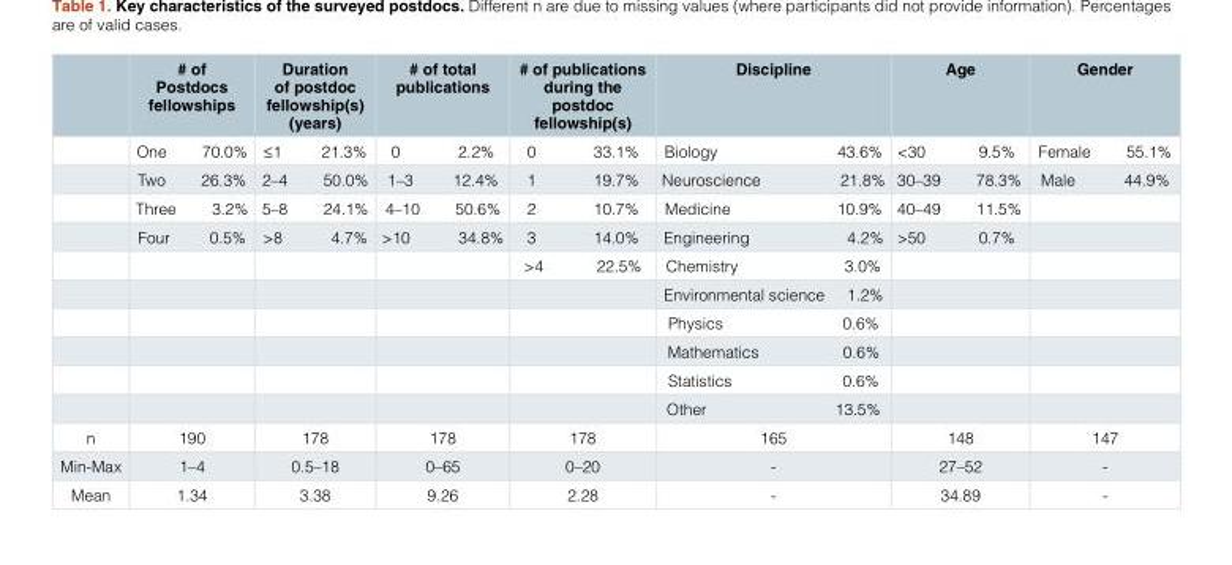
<table><thead><tr><td></td><td># of Postdocs fellowships</td><td>Duration of postdoc fellowship(s) (years)</td><td># of total publications</td><td># of publications during the postdoc fellowship(s)</td><td>Discipline</td><td>Age</td><td>Gender</td></tr></thead><tbody><tr><td></td><td>One 70.0%</td><td>≤1 21.3%</td><td>0 2.2%</td><td>0 33.1%</td><td>Biology 43.6%</td><td>&lt;30 9.5%</td><td>Female 55.1%</td></tr><tr><td></td><td>Two 26.3%</td><td>2–4 50.0%</td><td>1–3 12.4%</td><td>1 19.7%</td><td>Neuroscience 21.8%</td><td>30–39 78.3%</td><td>Male 44.9%</td></tr><tr><td></td><td>Three 3.2%</td><td>5–8 24.1%</td><td>4–10 50.6%</td><td>2 10.7%</td><td>Medicine 10.9%</td><td>40–49 11.5%</td><td></td></tr><tr><td></td><td>Four 0.5%</td><td>&gt;8 4.7%</td><td>&gt;10 34.8%</td><td>3 14.0%</td><td>Engineering 4.2%</td><td>&gt;50 0.7%</td><td></td></tr><tr><td></td><td></td><td></td><td></td><td>&gt;4 22.5%</td><td>Chemistry 3.0%</td><td></td><td></td></tr><tr><td></td><td></td><td></td><td></td><td></td><td>Environmental science 1.2%</td><td></td><td></td></tr><tr><td></td><td></td><td></td><td></td><td></td><td>Physics 0.6%</td><td></td><td></td></tr><tr><td></td><td></td><td></td><td></td><td></td><td>Mathematics 0.6%</td><td></td><td></td></tr><tr><td></td><td></td><td></td><td></td><td></td><td>Statistics 0.6%</td><td></td><td></td></tr><tr><td></td><td></td><td></td><td></td><td></td><td>Other 13.5%</td><td></td><td></td></tr><tr><td>n</td><td>190</td><td>178</td><td>178</td><td>178</td><td>165</td><td>148</td><td>147</td></tr><tr><td>Min-Max</td><td>1–4</td><td>0.5–18</td><td>0–65</td><td>0–20</td><td>-</td><td>27–52</td><td>-</td></tr><tr><td>Mean</td><td>1.34</td><td>3.38</td><td>9.26</td><td>2.28</td><td>-</td><td>34.89</td><td>-</td></tr></tbody></table>